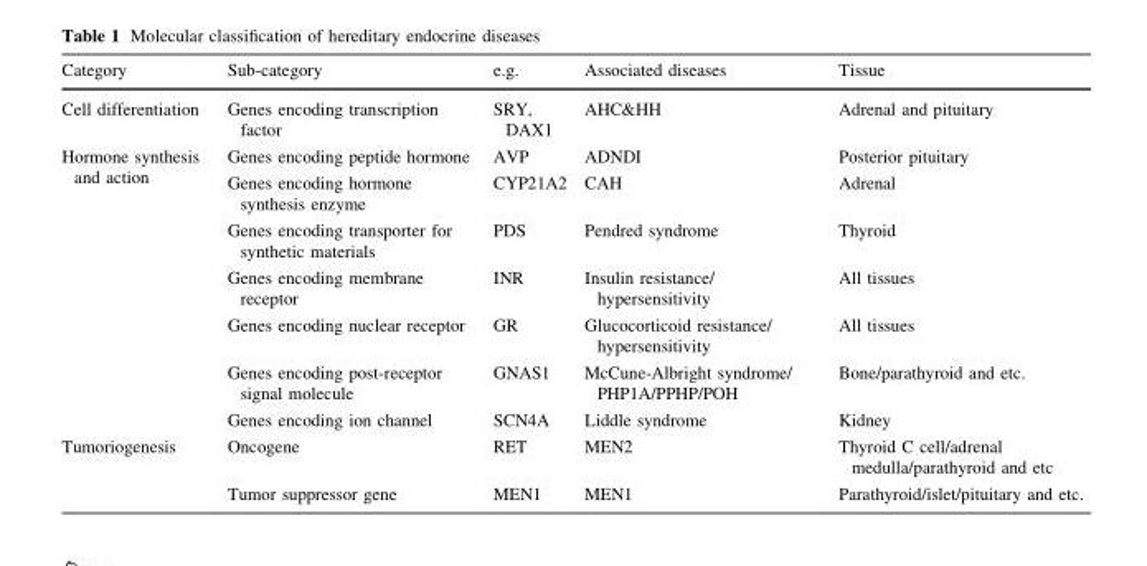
<table><thead><tr><td>Category</td><td>Sub-category</td><td>e.g.</td><td>Associated diseases</td><td>Tissue</td></tr></thead><tbody><tr><td>Cell differentiation</td><td>Genes encoding transcription factor</td><td>SRY, DAX1</td><td>AHC&amp;HH</td><td>Adrenal and pituitary</td></tr><tr><td rowspan="7">Hormone synthesis and action</td><td>Genes encoding peptide hormone</td><td>AVP</td><td>ADNDI</td><td>Posterior pituitary</td></tr><tr><td>Genes encoding hormone synthesis enzyme</td><td>CYP21A2</td><td>CAH</td><td>Adrenal</td></tr><tr><td>Genes encoding transporter for synthetic materials</td><td>PDS</td><td>Pendred syndrome</td><td>Thyroid</td></tr><tr><td>Genes encoding membrane receptor</td><td>INR</td><td>Insulin resistance/ hypersensitivity</td><td>All tissues</td></tr><tr><td>Genes encoding nuclear receptor</td><td>GR</td><td>Glucocorticoid resistance/ hypersensitivity</td><td>All tissues</td></tr><tr><td>Genes encoding post-receptor signal molecule</td><td>GNAS1</td><td>McCune-Albright syndrome/ PHP1A/PPHP/POH</td><td>Bone/parathyroid and etc.</td></tr><tr><td>Genes encoding ion channel</td><td>SCN4A</td><td>Liddle syndrome</td><td>Kidney</td></tr><tr><td rowspan="2">Tumoriogenesis</td><td>Oncogene</td><td>RET</td><td>MEN2</td><td>Thyroid C cell/adrenal medulla/parathyroid and etc</td></tr><tr><td>Tumor suppressor gene</td><td>MEN1</td><td>MEN1</td><td>Parathyroid/islet/pituitary and etc.</td></tr></tbody></table>